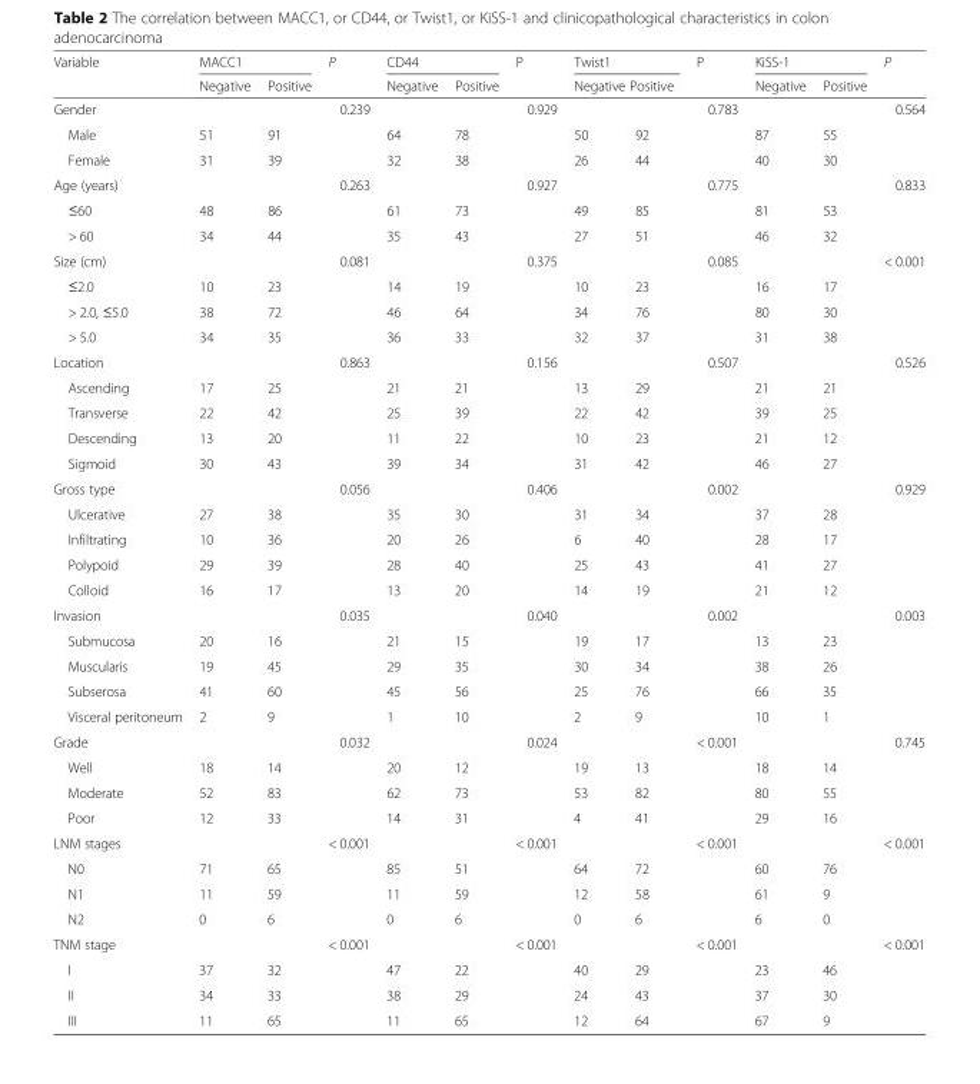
<table><thead><tr><td rowspan="3">Variable Gender</td><td colspan="2">MACC1</td><td rowspan="3">P 0.239</td><td colspan="2">CD44</td><td rowspan="3">P 0.929</td><td rowspan="2" colspan="2">Twist1 Negative Positive</td><td rowspan="3">P 0.783</td><td colspan="2">KiSS-1</td><td rowspan="3">P 0.564</td></tr><tr><td rowspan="2">Negative</td><td rowspan="2">Positive</td><td rowspan="2">Negative</td><td rowspan="2">Positive</td><td rowspan="2">Negative</td><td rowspan="2">Positive</td></tr><tr><td></td><td></td></tr></thead><tbody><tr><td>Male</td><td>51</td><td>91</td><td></td><td>64</td><td>78</td><td></td><td>50</td><td>92</td><td></td><td>87</td><td>55</td><td></td></tr><tr><td>Female</td><td>31</td><td>39</td><td></td><td>32</td><td>38</td><td></td><td>26</td><td>44</td><td></td><td>40</td><td>30</td><td></td></tr><tr><td>Age (years)</td><td></td><td></td><td>0.263</td><td></td><td></td><td>0.927</td><td></td><td></td><td>0.775</td><td></td><td></td><td>0.833</td></tr><tr><td>≤60</td><td>48</td><td>86</td><td></td><td>61</td><td>73</td><td></td><td>49</td><td>85</td><td></td><td>81</td><td>53</td><td></td></tr><tr><td>&gt; 60</td><td>34</td><td>44</td><td></td><td>35</td><td>43</td><td></td><td>27</td><td>51</td><td></td><td>46</td><td>32</td><td></td></tr><tr><td>Size (cm)</td><td></td><td></td><td>0.081</td><td></td><td></td><td>0.375</td><td></td><td></td><td>0.085</td><td></td><td></td><td>&lt; 0.001</td></tr><tr><td>≤2.0</td><td>10</td><td>23</td><td></td><td>14</td><td>19</td><td></td><td>10</td><td>23</td><td></td><td>16</td><td>17</td><td></td></tr><tr><td>&gt; 2.0, ≤5.0</td><td>38</td><td>72</td><td></td><td>46</td><td>64</td><td></td><td>34</td><td>76</td><td></td><td>80</td><td>30</td><td></td></tr><tr><td>&gt; 5.0</td><td>34</td><td>35</td><td></td><td>36</td><td>33</td><td></td><td>32</td><td>37</td><td></td><td>31</td><td>38</td><td></td></tr><tr><td>Location</td><td></td><td></td><td>0.863</td><td></td><td></td><td>0.156</td><td></td><td></td><td>0.507</td><td></td><td></td><td>0.526</td></tr><tr><td>Ascending</td><td>17</td><td>25</td><td></td><td>21</td><td>21</td><td></td><td>13</td><td>29</td><td></td><td>21</td><td>21</td><td></td></tr><tr><td>Transverse</td><td>22</td><td>42</td><td></td><td>25</td><td>39</td><td></td><td>22</td><td>42</td><td></td><td>39</td><td>25</td><td></td></tr><tr><td>Descending</td><td>13</td><td>20</td><td></td><td>11</td><td>22</td><td></td><td>10</td><td>23</td><td></td><td>21</td><td>12</td><td></td></tr><tr><td>Sigmoid</td><td>30</td><td>43</td><td></td><td>39</td><td>34</td><td></td><td>31</td><td>42</td><td></td><td>46</td><td>27</td><td></td></tr><tr><td>Gross type</td><td></td><td></td><td>0.056</td><td></td><td></td><td>0.406</td><td></td><td></td><td>0.002</td><td></td><td></td><td>0.929</td></tr><tr><td>Ulcerative</td><td>27</td><td>38</td><td></td><td>35</td><td>30</td><td></td><td>31</td><td>34</td><td></td><td>37</td><td>28</td><td></td></tr><tr><td>Infiltrating</td><td>10</td><td>36</td><td></td><td>20</td><td>26</td><td></td><td>6</td><td>40</td><td></td><td>28</td><td>17</td><td></td></tr><tr><td>Polypoid</td><td>29</td><td>39</td><td></td><td>28</td><td>40</td><td></td><td>25</td><td>43</td><td></td><td>41</td><td>27</td><td></td></tr><tr><td>Colloid</td><td>16</td><td>17</td><td></td><td>13</td><td>20</td><td></td><td>14</td><td>19</td><td></td><td>21</td><td>12</td><td></td></tr><tr><td>Invasion</td><td></td><td></td><td>0.035</td><td></td><td></td><td>0.040</td><td></td><td></td><td>0.002</td><td></td><td></td><td>0.003</td></tr><tr><td>Submucosa</td><td>20</td><td>16</td><td></td><td>21</td><td>15</td><td></td><td>19</td><td>17</td><td></td><td>13</td><td>23</td><td></td></tr><tr><td>Muscularis</td><td>19</td><td>45</td><td></td><td>29</td><td>35</td><td></td><td>30</td><td>34</td><td></td><td>38</td><td>26</td><td></td></tr><tr><td>Subserosa</td><td>41</td><td>60</td><td></td><td>45</td><td>56</td><td></td><td>25</td><td>76</td><td></td><td>66</td><td>35</td><td></td></tr><tr><td>Visceral peritoneum</td><td>2</td><td>9</td><td></td><td>1</td><td>10</td><td></td><td>2</td><td>9</td><td></td><td>10</td><td>1</td><td></td></tr><tr><td>Grade</td><td></td><td></td><td>0.032</td><td></td><td></td><td>0.024</td><td></td><td></td><td>&lt; 0.001</td><td></td><td></td><td>0.745</td></tr><tr><td>Well</td><td>18</td><td>14</td><td></td><td>20</td><td>12</td><td></td><td>19</td><td>13</td><td></td><td>18</td><td>14</td><td></td></tr><tr><td>Moderate</td><td>52</td><td>83</td><td></td><td>62</td><td>73</td><td></td><td>53</td><td>82</td><td></td><td>80</td><td>55</td><td></td></tr><tr><td>Poor</td><td>12</td><td>33</td><td></td><td>14</td><td>31</td><td></td><td>4</td><td>41</td><td></td><td>29</td><td>16</td><td></td></tr><tr><td>LNM stages</td><td></td><td></td><td>&lt; 0.001</td><td></td><td></td><td>&lt; 0.001</td><td></td><td></td><td>&lt; 0.001</td><td></td><td></td><td>&lt; 0.001</td></tr><tr><td>N0</td><td>71</td><td>65</td><td></td><td>85</td><td>51</td><td></td><td>64</td><td>72</td><td></td><td>60</td><td>76</td><td></td></tr><tr><td>N1</td><td>11</td><td>59</td><td></td><td>11</td><td>59</td><td></td><td>12</td><td>58</td><td></td><td>61</td><td>9</td><td></td></tr><tr><td>N2</td><td>0</td><td>6</td><td></td><td>0</td><td>6</td><td></td><td>0</td><td>6</td><td></td><td>6</td><td>0</td><td></td></tr><tr><td>TNM stage</td><td></td><td></td><td>&lt; 0.001</td><td></td><td></td><td>&lt; 0.001</td><td></td><td></td><td>&lt; 0.001</td><td></td><td></td><td>&lt; 0.001</td></tr><tr><td>I</td><td>37</td><td>32</td><td></td><td>47</td><td>22</td><td></td><td>40</td><td>29</td><td></td><td>23</td><td>46</td><td></td></tr><tr><td>II</td><td>34</td><td>33</td><td></td><td>38</td><td>29</td><td></td><td>24</td><td>43</td><td></td><td>37</td><td>30</td><td></td></tr><tr><td>III</td><td>11</td><td>65</td><td></td><td>11</td><td>65</td><td></td><td>12</td><td>64</td><td></td><td>67</td><td>9</td><td></td></tr></tbody></table>